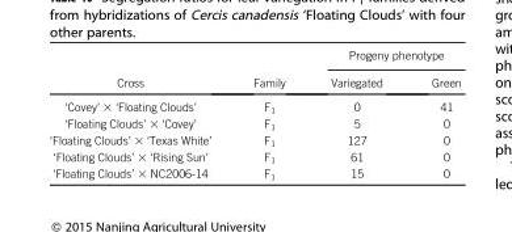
<table><thead><tr><td rowspan="2">Cross</td><td rowspan="2">Family</td><td colspan="2">Progeny phenotype</td></tr><tr><td>Variegated</td><td>Green</td></tr></thead><tbody><tr><td>‘Covey’ × ‘Floating Clouds’</td><td>F<sub>1</sub></td><td>0</td><td>41</td></tr><tr><td>‘Floating Clouds’ × ‘Covey’</td><td>F<sub>1</sub></td><td>5</td><td>0</td></tr><tr><td>‘Floating Clouds’ × ‘Texas White’</td><td>F<sub>1</sub></td><td>127</td><td>0</td></tr><tr><td>‘Floating Clouds’ × ‘Rising Sun’</td><td>F<sub>1</sub></td><td>61</td><td>0</td></tr><tr><td>‘Floating Clouds’ × NC2006-14</td><td>F<sub>1</sub></td><td>15</td><td>0</td></tr></tbody></table>